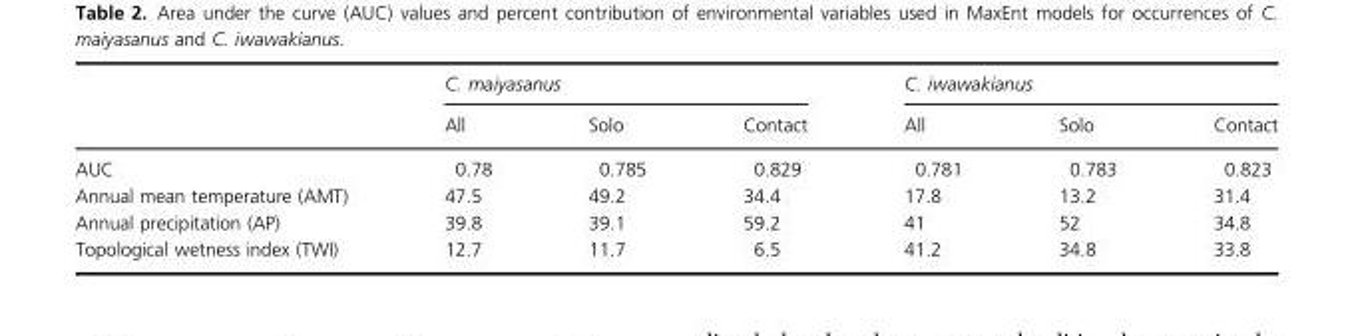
<table><thead><tr><td rowspan="2"></td><td colspan="3">C. maiyasanus</td><td colspan="3">C. iwawakianus</td></tr><tr><td>All</td><td>Solo</td><td>Contact</td><td>All</td><td>Solo</td><td>Contact</td></tr></thead><tbody><tr><td>AUC</td><td>0.78</td><td>0.785</td><td>0.829</td><td>0.781</td><td>0.783</td><td>0.823</td></tr><tr><td>Annual mean temperature (AMT)</td><td>47.5</td><td>49.2</td><td>34.4</td><td>17.8</td><td>13.2</td><td>31.4</td></tr><tr><td>Annual precipitation (AP)</td><td>39.8</td><td>39.1</td><td>59.2</td><td>41</td><td>52</td><td>34.8</td></tr><tr><td>Topological wetness index (TWI)</td><td>12.7</td><td>11.7</td><td>6.5</td><td>41.2</td><td>34.8</td><td>33.8</td></tr></tbody></table>